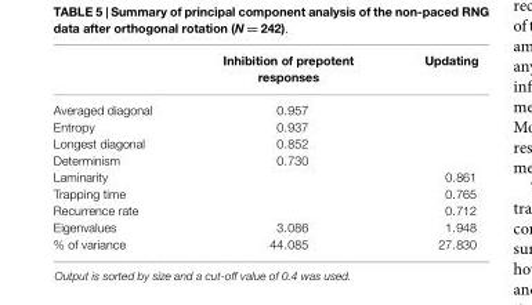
<table><thead><tr><td></td><td>Inhibition of prepotent responses</td><td>Updating</td></tr></thead><tbody><tr><td>Averaged diagonal</td><td>0.957</td><td></td></tr><tr><td>Entropy</td><td>0.937</td><td></td></tr><tr><td>Longest diagonal</td><td>0.852</td><td></td></tr><tr><td>Determinism</td><td>0.730</td><td></td></tr><tr><td>Laminarity</td><td></td><td>0.861</td></tr><tr><td>Trapping time</td><td></td><td>0.765</td></tr><tr><td>Recurrence rate</td><td></td><td>0.712</td></tr><tr><td>Eigenvalues</td><td>3.086</td><td>1.948</td></tr><tr><td>% of variance</td><td>44.085</td><td>27.830</td></tr></tbody></table>